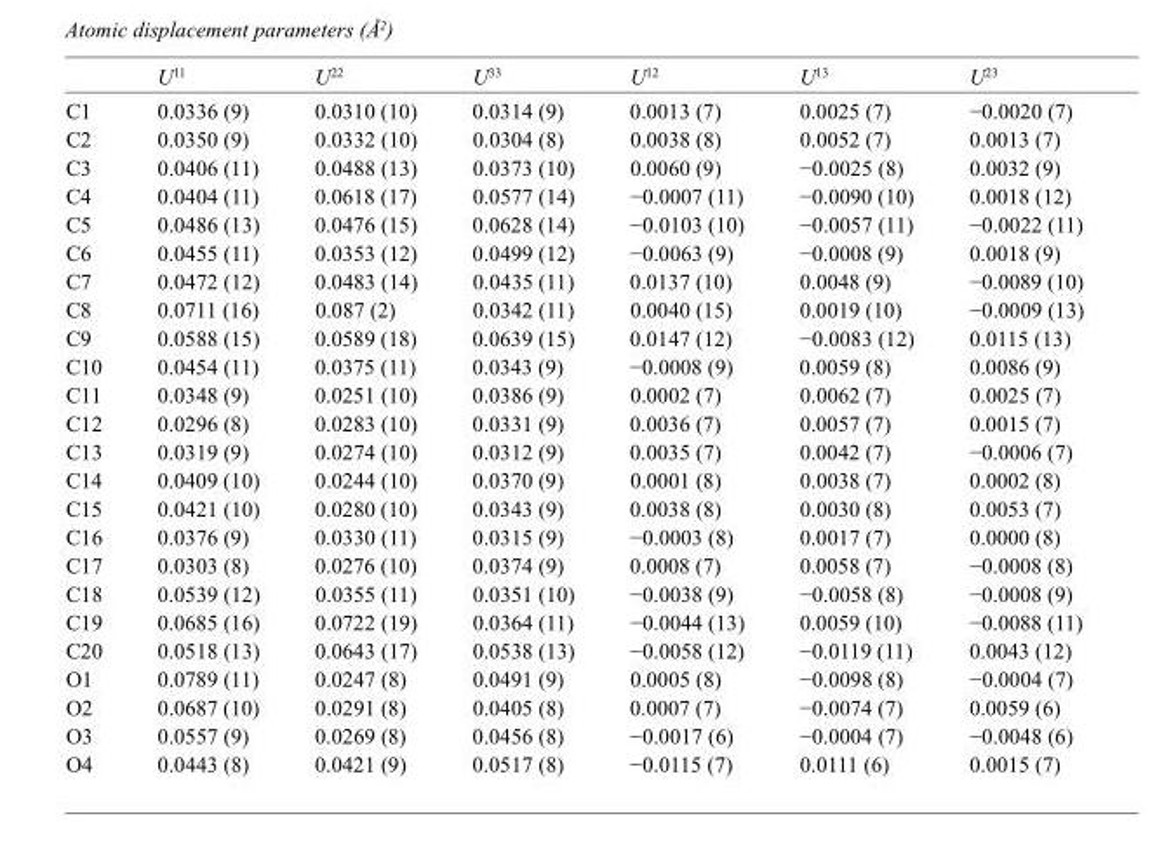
<table><thead><tr><td></td><td>U<sup>11</sup></td><td>U<sup>22</sup></td><td>U<sup>33</sup></td><td>U<sup>12</sup></td><td>U<sup>13</sup></td><td>U<sup>23</sup></td></tr></thead><tbody><tr><td>C1</td><td>0.0336 (9)</td><td>0.0310 (10)</td><td>0.0314 (9)</td><td>0.0013 (7)</td><td>0.0025 (7)</td><td>−0.0020 (7)</td></tr><tr><td>C2</td><td>0.0350 (9)</td><td>0.0332 (10)</td><td>0.0304 (8)</td><td>0.0038 (8)</td><td>0.0052 (7)</td><td>0.0013 (7)</td></tr><tr><td>C3</td><td>0.0406 (11)</td><td>0.0488 (13)</td><td>0.0373 (10)</td><td>0.0060 (9)</td><td>−0.0025 (8)</td><td>0.0032 (9)</td></tr><tr><td>C4</td><td>0.0404 (11)</td><td>0.0618 (17)</td><td>0.0577 (14)</td><td>−0.0007 (11)</td><td>−0.0090 (10)</td><td>0.0018 (12)</td></tr><tr><td>C5</td><td>0.0486 (13)</td><td>0.0476 (15)</td><td>0.0628 (14)</td><td>−0.0103 (10)</td><td>−0.0057 (11)</td><td>−0.0022 (11)</td></tr><tr><td>C6</td><td>0.0455 (11)</td><td>0.0353 (12)</td><td>0.0499 (12)</td><td>−0.0063 (9)</td><td>−0.0008 (9)</td><td>0.0018 (9)</td></tr><tr><td>C7</td><td>0.0472 (12)</td><td>0.0483 (14)</td><td>0.0435 (11)</td><td>0.0137 (10)</td><td>0.0048 (9)</td><td>−0.0089 (10)</td></tr><tr><td>C8</td><td>0.0711 (16)</td><td>0.087 (2)</td><td>0.0342 (11)</td><td>0.0040 (15)</td><td>0.0019 (10)</td><td>−0.0009 (13)</td></tr><tr><td>C9</td><td>0.0588 (15)</td><td>0.0589 (18)</td><td>0.0639 (15)</td><td>0.0147 (12)</td><td>−0.0083 (12)</td><td>0.0115 (13)</td></tr><tr><td>C10</td><td>0.0454 (11)</td><td>0.0375 (11)</td><td>0.0343 (9)</td><td>−0.0008 (9)</td><td>0.0059 (8)</td><td>0.0086 (9)</td></tr><tr><td>C11</td><td>0.0348 (9)</td><td>0.0251 (10)</td><td>0.0386 (9)</td><td>0.0002 (7)</td><td>0.0062 (7)</td><td>0.0025 (7)</td></tr><tr><td>C12</td><td>0.0296 (8)</td><td>0.0283 (10)</td><td>0.0331 (9)</td><td>0.0036 (7)</td><td>0.0057 (7)</td><td>0.0015 (7)</td></tr><tr><td>C13</td><td>0.0319 (9)</td><td>0.0274 (10)</td><td>0.0312 (9)</td><td>0.0035 (7)</td><td>0.0042 (7)</td><td>−0.0006 (7)</td></tr><tr><td>C14</td><td>0.0409 (10)</td><td>0.0244 (10)</td><td>0.0370 (9)</td><td>0.0001 (8)</td><td>0.0038 (7)</td><td>0.0002 (8)</td></tr><tr><td>C15</td><td>0.0421 (10)</td><td>0.0280 (10)</td><td>0.0343 (9)</td><td>0.0038 (8)</td><td>0.0030 (8)</td><td>0.0053 (7)</td></tr><tr><td>C16</td><td>0.0376 (9)</td><td>0.0330 (11)</td><td>0.0315 (9)</td><td>−0.0003 (8)</td><td>0.0017 (7)</td><td>0.0000 (8)</td></tr><tr><td>C17</td><td>0.0303 (8)</td><td>0.0276 (10)</td><td>0.0374 (9)</td><td>0.0008 (7)</td><td>0.0058 (7)</td><td>−0.0008 (8)</td></tr><tr><td>C18</td><td>0.0539 (12)</td><td>0.0355 (11)</td><td>0.0351 (10)</td><td>−0.0038 (9)</td><td>−0.0058 (8)</td><td>−0.0008 (9)</td></tr><tr><td>C19</td><td>0.0685 (16)</td><td>0.0722 (19)</td><td>0.0364 (11)</td><td>−0.0044 (13)</td><td>0.0059 (10)</td><td>−0.0088 (11)</td></tr><tr><td>C20</td><td>0.0518 (13)</td><td>0.0643 (17)</td><td>0.0538 (13)</td><td>−0.0058 (12)</td><td>−0.0119 (11)</td><td>0.0043 (12)</td></tr><tr><td>O1</td><td>0.0789 (11)</td><td>0.0247 (8)</td><td>0.0491 (9)</td><td>0.0005 (8)</td><td>−0.0098 (8)</td><td>−0.0004 (7)</td></tr><tr><td>O2</td><td>0.0687 (10)</td><td>0.0291 (8)</td><td>0.0405 (8)</td><td>0.0007 (7)</td><td>−0.0074 (7)</td><td>0.0059 (6)</td></tr><tr><td>O3</td><td>0.0557 (9)</td><td>0.0269 (8)</td><td>0.0456 (8)</td><td>−0.0017 (6)</td><td>−0.0004 (7)</td><td>−0.0048 (6)</td></tr><tr><td>O4</td><td>0.0443 (8)</td><td>0.0421 (9)</td><td>0.0517 (8)</td><td>−0.0115 (7)</td><td>0.0111 (6)</td><td>0.0015 (7)</td></tr></tbody></table>